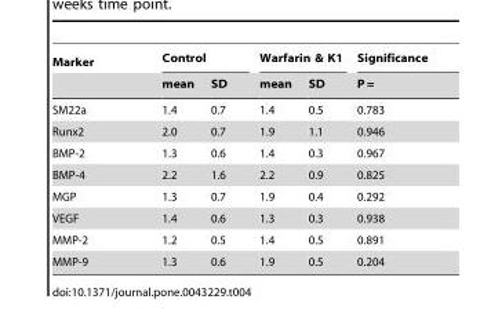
<table><thead><tr><td rowspan="2">Marker</td><td colspan="2">Control</td><td colspan="2">Warfarin &amp; K1</td><td rowspan="2">Significance P =</td></tr><tr><td>mean</td><td>SD</td><td>mean</td><td>SD</td></tr></thead><tbody><tr><td>SM22a</td><td>1.4</td><td>0.7</td><td>1.4</td><td>0.5</td><td>0.783</td></tr><tr><td>Runx2</td><td>2.0</td><td>0.7</td><td>1.9</td><td>1.1</td><td>0.946</td></tr><tr><td>BMP-2</td><td>1.3</td><td>0.6</td><td>1.4</td><td>0.3</td><td>0.967</td></tr><tr><td>BMP-4</td><td>2.2</td><td>1.6</td><td>2.2</td><td>0.9</td><td>0.825</td></tr><tr><td>MGP</td><td>1.3</td><td>0.7</td><td>1.9</td><td>0.4</td><td>0.292</td></tr><tr><td>VEGF</td><td>1.4</td><td>0.6</td><td>1.3</td><td>0.3</td><td>0.938</td></tr><tr><td>MMP-2</td><td>1.2</td><td>0.5</td><td>1.4</td><td>0.5</td><td>0.891</td></tr><tr><td>MMP-9</td><td>1.3</td><td>0.6</td><td>1.9</td><td>0.5</td><td>0.204</td></tr></tbody></table>